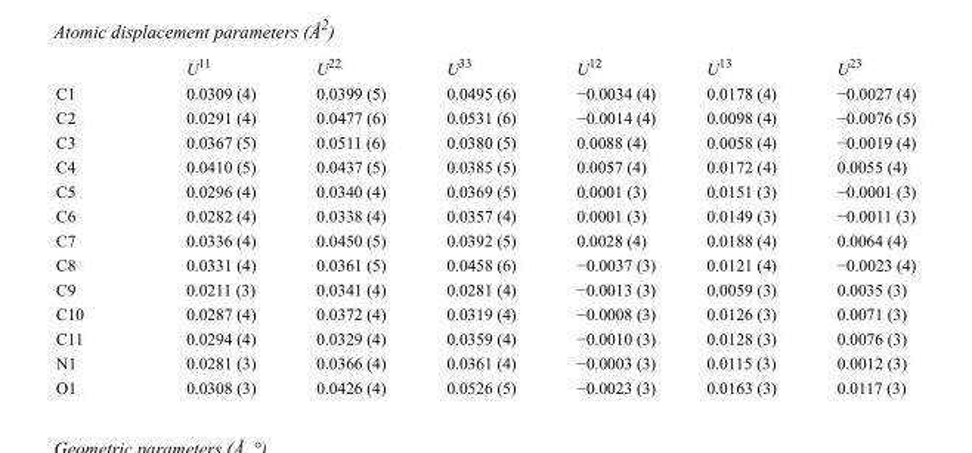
<table><thead><tr><td></td><td>U<sup>11</sup></td><td>U<sup>22</sup></td><td>U<sup>33</sup></td><td>U<sup>12</sup></td><td>U<sup>13</sup></td><td>U<sup>23</sup></td></tr></thead><tbody><tr><td>C1</td><td>0.0309 (4)</td><td>0.0399 (5)</td><td>0.0495 (6)</td><td>−0.0034 (4)</td><td>0.0178 (4)</td><td>−0.0027 (4)</td></tr><tr><td>C2</td><td>0.0291 (4)</td><td>0.0477 (6)</td><td>0.0531 (6)</td><td>−0.0014 (4)</td><td>0.0098 (4)</td><td>−0.0076 (5)</td></tr><tr><td>C3</td><td>0.0367 (5)</td><td>0.0511 (6)</td><td>0.0380 (5)</td><td>0.0088 (4)</td><td>0.0058 (4)</td><td>−0.0019 (4)</td></tr><tr><td>C4</td><td>0.0410 (5)</td><td>0.0437 (5)</td><td>0.0385 (5)</td><td>0.0057 (4)</td><td>0.0172 (4)</td><td>0.0055 (4)</td></tr><tr><td>C5</td><td>0.0296 (4)</td><td>0.0340 (4)</td><td>0.0369 (5)</td><td>0.0001 (3)</td><td>0.0151 (3)</td><td>−0.0001 (3)</td></tr><tr><td>C6</td><td>0.0282 (4)</td><td>0.0338 (4)</td><td>0.0357 (4)</td><td>0.0001 (3)</td><td>0.0149 (3)</td><td>−0.0011 (3)</td></tr><tr><td>C7</td><td>0.0336 (4)</td><td>0.0450 (5)</td><td>0.0392 (5)</td><td>0.0028 (4)</td><td>0.0188 (4)</td><td>0.0064 (4)</td></tr><tr><td>C8</td><td>0.0331 (4)</td><td>0.0361 (5)</td><td>0.0458 (6)</td><td>−0.0037 (3)</td><td>0.0121 (4)</td><td>−0.0023 (4)</td></tr><tr><td>C9</td><td>0.0211 (3)</td><td>0.0341 (4)</td><td>0.0281 (4)</td><td>−0.0013 (3)</td><td>0.0059 (3)</td><td>0.0035 (3)</td></tr><tr><td>C10</td><td>0.0287 (4)</td><td>0.0372 (4)</td><td>0.0319 (4)</td><td>−0.0008 (3)</td><td>0.0126 (3)</td><td>0.0071 (3)</td></tr><tr><td>C11</td><td>0.0294 (4)</td><td>0.0329 (4)</td><td>0.0359 (4)</td><td>−0.0010 (3)</td><td>0.0128 (3)</td><td>0.0076 (3)</td></tr><tr><td>N1</td><td>0.0281 (3)</td><td>0.0366 (4)</td><td>0.0361 (4)</td><td>−0.0003 (3)</td><td>0.0115 (3)</td><td>0.0012 (3)</td></tr><tr><td>O1</td><td>0.0308 (3)</td><td>0.0426 (4)</td><td>0.0526 (5)</td><td>−0.0023 (3)</td><td>0.0163 (3)</td><td>0.0117 (3)</td></tr></tbody></table>